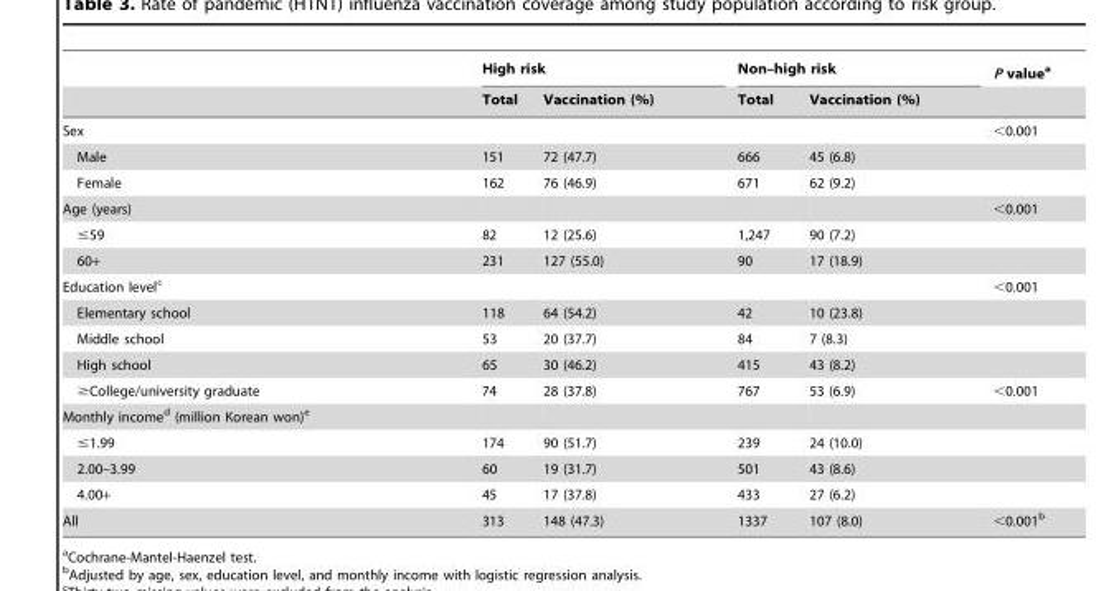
<table><thead><tr><td rowspan="2"></td><td colspan="2">High risk</td><td colspan="2">Non–high risk</td><td rowspan="2">P value<sup>a</sup></td></tr><tr><td>Total</td><td>Vaccination (%)</td><td>Total</td><td>Vaccination (%)</td></tr></thead><tbody><tr><td>Sex</td><td></td><td></td><td></td><td></td><td>&lt;0.001</td></tr><tr><td>Male</td><td>151</td><td>72 (47.7)</td><td>666</td><td>45 (6.8)</td><td></td></tr><tr><td>Female</td><td>162</td><td>76 (46.9)</td><td>671</td><td>62 (9.2)</td><td></td></tr><tr><td>Age (years)</td><td></td><td></td><td></td><td></td><td>&lt;0.001</td></tr><tr><td>≤59</td><td>82</td><td>12 (25.6)</td><td>1,247</td><td>90 (7.2)</td><td></td></tr><tr><td>60+</td><td>231</td><td>127 (55.0)</td><td>90</td><td>17 (18.9)</td><td></td></tr><tr><td>Education level<sup>c</sup></td><td></td><td></td><td></td><td></td><td>&lt;0.001</td></tr><tr><td>Elementary school</td><td>118</td><td>64 (54.2)</td><td>42</td><td>10 (23.8)</td><td></td></tr><tr><td>Middle school</td><td>53</td><td>20 (37.7)</td><td>84</td><td>7 (8.3)</td><td></td></tr><tr><td>High school</td><td>65</td><td>30 (46.2)</td><td>415</td><td>43 (8.2)</td><td></td></tr><tr><td>≥College/university graduate</td><td>74</td><td>28 (37.8)</td><td>767</td><td>53 (6.9)</td><td>&lt;0.001</td></tr><tr><td colspan="6">Monthly income<sup>d</sup> (million Korean won)<sup>e</sup></td></tr><tr><td>≤1.99</td><td>174</td><td>90 (51.7)</td><td>239</td><td>24 (10.0)</td><td></td></tr><tr><td>2.00–3.99</td><td>60</td><td>19 (31.7)</td><td>501</td><td>43 (8.6)</td><td></td></tr><tr><td>4.00+</td><td>45</td><td>17 (37.8)</td><td>433</td><td>27 (6.2)</td><td></td></tr><tr><td>All</td><td>313</td><td>148 (47.3)</td><td>1337</td><td>107 (8.0)</td><td>&lt;0.001<sup>b</sup></td></tr></tbody></table>